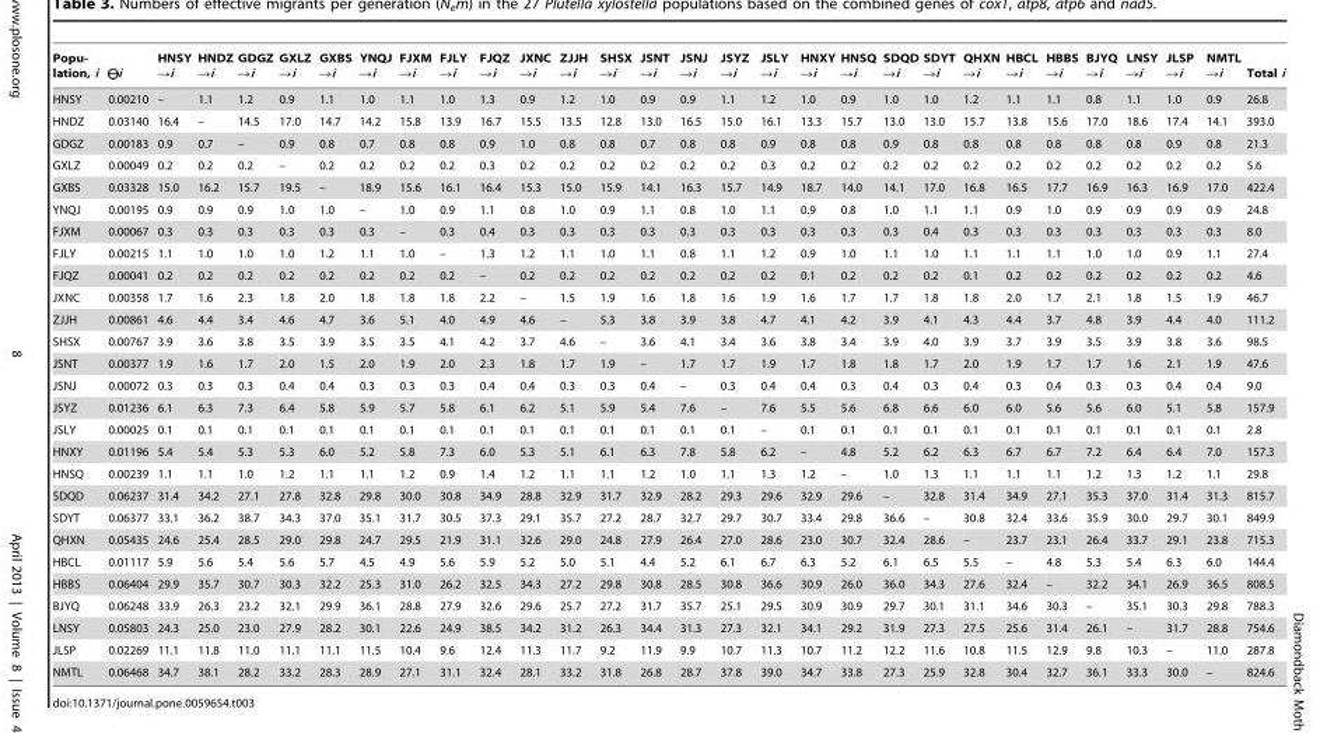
<table><thead><tr><td>Popu- lation, i</td><td>i</td><td>HNSY →i</td><td>HNDZ →i</td><td>GDGZ →i</td><td>GXLZ →i</td><td>GXBS →i</td><td>YNQJ →i</td><td>FJXM →i</td><td>FJLY →i</td><td>FJQZ →i</td><td>JXNC →i</td><td>ZJJH →i</td><td>SHSX →i</td><td>JSNT →i</td><td>JSNJ →i</td><td>JSYZ →i</td><td>JSLY →i</td><td>HNXY →i</td><td>HNSQ →i</td><td>SDQD →i</td><td>SDYT →i</td><td>QHXN →i</td><td>HBCL →i</td><td>HBBS →i</td><td>BJYQ →i</td><td>LNSY →i</td><td>JLSP →i</td><td>NMTL →i</td><td>Total i</td></tr></thead><tbody><tr><td>HNSY</td><td>0.00210</td><td>–</td><td>1.1</td><td>1.2</td><td>0.9</td><td>1.1</td><td>1.0</td><td>1.1</td><td>1.0</td><td>1.3</td><td>0.9</td><td>1.2</td><td>1.0</td><td>0.9</td><td>0.9</td><td>1.1</td><td>1.2</td><td>1.0</td><td>0.9</td><td>1.0</td><td>1.0</td><td>1.2</td><td>1.1</td><td>1.1</td><td>0.8</td><td>1.1</td><td>1.0</td><td>0.9</td><td>26.8</td></tr><tr><td>HNDZ</td><td>0.03140</td><td>16.4</td><td>–</td><td>14.5</td><td>17.0</td><td>14.7</td><td>14.2</td><td>15.8</td><td>13.9</td><td>16.7</td><td>15.5</td><td>13.5</td><td>12.8</td><td>13.0</td><td>16.5</td><td>15.0</td><td>16.1</td><td>13.3</td><td>15.7</td><td>13.0</td><td>13.0</td><td>15.7</td><td>13.8</td><td>15.6</td><td>17.0</td><td>18.6</td><td>17.4</td><td>14.1</td><td>393.0</td></tr><tr><td>GDGZ</td><td>0.00183</td><td>0.9</td><td>0.7</td><td>–</td><td>0.9</td><td>0.8</td><td>0.7</td><td>0.8</td><td>0.8</td><td>0.9</td><td>1.0</td><td>0.8</td><td>0.8</td><td>0.7</td><td>0.8</td><td>0.8</td><td>0.9</td><td>0.8</td><td>0.8</td><td>0.9</td><td>0.8</td><td>0.8</td><td>0.8</td><td>0.8</td><td>0.8</td><td>0.8</td><td>0.9</td><td>0.8</td><td>21.3</td></tr><tr><td>GXLZ</td><td>0.00049</td><td>0.2</td><td>0.2</td><td>0.2</td><td>–</td><td>0.2</td><td>0.2</td><td>0.2</td><td>0.2</td><td>0.3</td><td>0.2</td><td>0.2</td><td>0.2</td><td>0.2</td><td>0.2</td><td>0.2</td><td>0.3</td><td>0.2</td><td>0.2</td><td>0.2</td><td>0.2</td><td>0.2</td><td>0.2</td><td>0.2</td><td>0.2</td><td>0.2</td><td>0.2</td><td>0.2</td><td>5.6</td></tr><tr><td>GXBS</td><td>0.03328</td><td>15.0</td><td>16.2</td><td>15.7</td><td>19.5</td><td>–</td><td>18.9</td><td>15.6</td><td>16.1</td><td>16.4</td><td>15.3</td><td>15.0</td><td>15.9</td><td>14.1</td><td>16.3</td><td>15.7</td><td>14.9</td><td>18.7</td><td>14.0</td><td>14.1</td><td>17.0</td><td>16.8</td><td>16.5</td><td>17.7</td><td>16.9</td><td>16.3</td><td>16.9</td><td>17.0</td><td>422.4</td></tr><tr><td>YNQJ</td><td>0.00195</td><td>0.9</td><td>0.9</td><td>0.9</td><td>1.0</td><td>1.0</td><td>–</td><td>1.0</td><td>0.9</td><td>1.1</td><td>0.8</td><td>1.0</td><td>0.9</td><td>1.1</td><td>0.8</td><td>1.0</td><td>1.1</td><td>0.9</td><td>0.8</td><td>1.0</td><td>1.1</td><td>1.1</td><td>0.9</td><td>1.0</td><td>0.9</td><td>0.9</td><td>0.9</td><td>0.9</td><td>24.8</td></tr><tr><td>FJXM</td><td>0.00067</td><td>0.3</td><td>0.3</td><td>0.3</td><td>0.3</td><td>0.3</td><td>0.3</td><td>–</td><td>0.3</td><td>0.4</td><td>0.3</td><td>0.3</td><td>0.3</td><td>0.3</td><td>0.3</td><td>0.3</td><td>0.3</td><td>0.3</td><td>0.3</td><td>0.3</td><td>0.4</td><td>0.3</td><td>0.3</td><td>0.3</td><td>0.3</td><td>0.3</td><td>0.3</td><td>0.3</td><td>8.0</td></tr><tr><td>FJLY</td><td>0.00215</td><td>1.1</td><td>1.0</td><td>1.0</td><td>1.0</td><td>1.2</td><td>1.1</td><td>1.0</td><td>–</td><td>1.3</td><td>1.2</td><td>1.1</td><td>1.0</td><td>1.1</td><td>0.8</td><td>1.1</td><td>1.2</td><td>0.9</td><td>1.0</td><td>1.1</td><td>1.0</td><td>1.1</td><td>1.1</td><td>1.1</td><td>1.0</td><td>1.0</td><td>0.9</td><td>1.1</td><td>27.4</td></tr><tr><td>FJQZ</td><td>0.00041</td><td>0.2</td><td>0.2</td><td>0.2</td><td>0.2</td><td>0.2</td><td>0.2</td><td>0.2</td><td>0.2</td><td>–</td><td>0.2</td><td>0.2</td><td>0.2</td><td>0.2</td><td>0.2</td><td>0.2</td><td>0.2</td><td>0.1</td><td>0.2</td><td>0.2</td><td>0.2</td><td>0.1</td><td>0.2</td><td>0.2</td><td>0.2</td><td>0.2</td><td>0.2</td><td>0.2</td><td>4.6</td></tr><tr><td>JXNC</td><td>0.00358</td><td>1.7</td><td>1.6</td><td>2.3</td><td>1.8</td><td>2.0</td><td>1.8</td><td>1.8</td><td>1.8</td><td>2.2</td><td>–</td><td>1.5</td><td>1.9</td><td>1.6</td><td>1.8</td><td>1.6</td><td>1.9</td><td>1.6</td><td>1.7</td><td>1.7</td><td>1.8</td><td>1.8</td><td>2.0</td><td>1.7</td><td>2.1</td><td>1.8</td><td>1.5</td><td>1.9</td><td>46.7</td></tr><tr><td>ZJJH</td><td>0.00861</td><td>4.6</td><td>4.4</td><td>3.4</td><td>4.6</td><td>4.7</td><td>3.6</td><td>5.1</td><td>4.0</td><td>4.9</td><td>4.6</td><td>–</td><td>5.3</td><td>3.8</td><td>3.9</td><td>3.8</td><td>4.7</td><td>4.1</td><td>4.2</td><td>3.9</td><td>4.1</td><td>4.3</td><td>4.4</td><td>3.7</td><td>4.8</td><td>3.9</td><td>4.4</td><td>4.0</td><td>111.2</td></tr><tr><td>SHSX</td><td>0.00767</td><td>3.9</td><td>3.6</td><td>3.8</td><td>3.5</td><td>3.9</td><td>3.5</td><td>3.5</td><td>4.1</td><td>4.2</td><td>3.7</td><td>4.6</td><td>–</td><td>3.6</td><td>4.1</td><td>3.4</td><td>3.6</td><td>3.8</td><td>3.4</td><td>3.9</td><td>4.0</td><td>3.9</td><td>3.7</td><td>3.9</td><td>3.5</td><td>3.9</td><td>3.8</td><td>3.6</td><td>98.5</td></tr><tr><td>JSNT</td><td>0.00377</td><td>1.9</td><td>1.6</td><td>1.7</td><td>2.0</td><td>1.5</td><td>2.0</td><td>1.9</td><td>2.0</td><td>2.3</td><td>1.8</td><td>1.7</td><td>1.9</td><td>–</td><td>1.7</td><td>1.7</td><td>1.9</td><td>1.7</td><td>1.8</td><td>1.8</td><td>1.7</td><td>2.0</td><td>1.9</td><td>1.7</td><td>1.7</td><td>1.6</td><td>2.1</td><td>1.9</td><td>47.6</td></tr><tr><td>JSNJ</td><td>0.00072</td><td>0.3</td><td>0.3</td><td>0.3</td><td>0.4</td><td>0.4</td><td>0.3</td><td>0.3</td><td>0.3</td><td>0.4</td><td>0.4</td><td>0.3</td><td>0.3</td><td>0.4</td><td>–</td><td>0.3</td><td>0.4</td><td>0.4</td><td>0.3</td><td>0.4</td><td>0.3</td><td>0.4</td><td>0.3</td><td>0.4</td><td>0.3</td><td>0.3</td><td>0.4</td><td>0.4</td><td>9.0</td></tr><tr><td>JSYZ</td><td>0.01236</td><td>6.1</td><td>6.3</td><td>7.3</td><td>6.4</td><td>5.8</td><td>5.9</td><td>5.7</td><td>5.8</td><td>6.1</td><td>6.2</td><td>5.1</td><td>5.9</td><td>5.4</td><td>7.6</td><td>–</td><td>7.6</td><td>5.5</td><td>5.6</td><td>6.8</td><td>6.6</td><td>6.0</td><td>6.0</td><td>5.6</td><td>5.6</td><td>6.0</td><td>5.1</td><td>5.8</td><td>157.9</td></tr><tr><td>JSLY</td><td>0.00025</td><td>0.1</td><td>0.1</td><td>0.1</td><td>0.1</td><td>0.1</td><td>0.1</td><td>0.1</td><td>0.1</td><td>0.1</td><td>0.1</td><td>0.1</td><td>0.1</td><td>0.1</td><td>0.1</td><td>0.1</td><td>–</td><td>0.1</td><td>0.1</td><td>0.1</td><td>0.1</td><td>0.1</td><td>0.1</td><td>0.1</td><td>0.1</td><td>0.1</td><td>0.1</td><td>0.1</td><td>2.8</td></tr><tr><td>HNXY</td><td>0.01196</td><td>5.4</td><td>5.4</td><td>5.3</td><td>5.3</td><td>6.0</td><td>5.2</td><td>5.8</td><td>7.3</td><td>6.0</td><td>5.3</td><td>5.1</td><td>6.1</td><td>6.3</td><td>7.8</td><td>5.8</td><td>6.2</td><td>–</td><td>4.8</td><td>5.2</td><td>6.2</td><td>6.3</td><td>6.7</td><td>6.7</td><td>7.2</td><td>6.4</td><td>6.4</td><td>7.0</td><td>157.3</td></tr><tr><td>HNSQ</td><td>0.00239</td><td>1.1</td><td>1.1</td><td>1.0</td><td>1.2</td><td>1.1</td><td>1.1</td><td>1.2</td><td>0.9</td><td>1.4</td><td>1.2</td><td>1.1</td><td>1.1</td><td>1.2</td><td>1.0</td><td>1.1</td><td>1.3</td><td>1.2</td><td>–</td><td>1.0</td><td>1.3</td><td>1.1</td><td>1.1</td><td>1.1</td><td>1.2</td><td>1.3</td><td>1.2</td><td>1.1</td><td>29.8</td></tr><tr><td>SDQD</td><td>0.06237</td><td>31.4</td><td>34.2</td><td>27.1</td><td>27.8</td><td>32.8</td><td>29.8</td><td>30.0</td><td>30.8</td><td>34.9</td><td>28.8</td><td>32.9</td><td>31.7</td><td>32.9</td><td>28.2</td><td>29.3</td><td>29.6</td><td>32.9</td><td>29.6</td><td>–</td><td>32.8</td><td>31.4</td><td>34.9</td><td>27.1</td><td>35.3</td><td>37.0</td><td>31.4</td><td>31.3</td><td>815.7</td></tr><tr><td>SDYT</td><td>0.06377</td><td>33.1</td><td>36.2</td><td>38.7</td><td>34.3</td><td>37.0</td><td>35.1</td><td>31.7</td><td>30.5</td><td>37.3</td><td>29.1</td><td>35.7</td><td>27.2</td><td>28.7</td><td>32.7</td><td>29.7</td><td>30.7</td><td>33.4</td><td>29.8</td><td>36.6</td><td>–</td><td>30.8</td><td>32.4</td><td>33.6</td><td>35.9</td><td>30.0</td><td>29.7</td><td>30.1</td><td>849.9</td></tr><tr><td>QHXN</td><td>0.05435</td><td>24.6</td><td>25.4</td><td>28.5</td><td>29.0</td><td>29.8</td><td>24.7</td><td>29.5</td><td>21.9</td><td>31.1</td><td>32.6</td><td>29.0</td><td>24.8</td><td>27.9</td><td>26.4</td><td>27.0</td><td>28.6</td><td>23.0</td><td>30.7</td><td>32.4</td><td>28.6</td><td>–</td><td>23.7</td><td>23.1</td><td>26.4</td><td>33.7</td><td>29.1</td><td>23.8</td><td>715.3</td></tr><tr><td>HBCL</td><td>0.01117</td><td>5.9</td><td>5.6</td><td>5.4</td><td>5.6</td><td>5.7</td><td>4.5</td><td>4.9</td><td>5.6</td><td>5.9</td><td>5.2</td><td>5.0</td><td>5.1</td><td>4.4</td><td>5.2</td><td>6.1</td><td>6.7</td><td>6.3</td><td>5.2</td><td>6.1</td><td>6.5</td><td>5.5</td><td>–</td><td>4.8</td><td>5.3</td><td>5.4</td><td>6.3</td><td>6.0</td><td>144.4</td></tr><tr><td>HBBS</td><td>0.06404</td><td>29.9</td><td>35.7</td><td>30.7</td><td>30.3</td><td>32.2</td><td>25.3</td><td>31.0</td><td>26.2</td><td>32.5</td><td>34.3</td><td>27.2</td><td>29.8</td><td>30.8</td><td>28.5</td><td>30.8</td><td>36.6</td><td>30.9</td><td>26.0</td><td>36.0</td><td>34.3</td><td>27.6</td><td>32.4</td><td>–</td><td>32.2</td><td>34.1</td><td>26.9</td><td>36.5</td><td>808.5</td></tr><tr><td>BJYQ</td><td>0.06248</td><td>33.9</td><td>26.3</td><td>23.2</td><td>32.1</td><td>29.9</td><td>36.1</td><td>28.8</td><td>27.9</td><td>32.6</td><td>29.6</td><td>25.7</td><td>27.2</td><td>31.7</td><td>35.7</td><td>25.1</td><td>29.5</td><td>30.9</td><td>30.9</td><td>29.7</td><td>30.1</td><td>31.1</td><td>34.6</td><td>30.3</td><td>–</td><td>35.1</td><td>30.3</td><td>29.8</td><td>788.3</td></tr><tr><td>LNSY</td><td>0.05803</td><td>24.3</td><td>25.0</td><td>23.0</td><td>27.9</td><td>28.2</td><td>30.1</td><td>22.6</td><td>24.9</td><td>38.5</td><td>34.2</td><td>31.2</td><td>26.3</td><td>34.4</td><td>31.3</td><td>27.3</td><td>32.1</td><td>34.1</td><td>29.2</td><td>31.9</td><td>27.3</td><td>27.5</td><td>25.6</td><td>31.4</td><td>26.1</td><td>–</td><td>31.7</td><td>28.8</td><td>754.6</td></tr><tr><td>JLSP</td><td>0.02269</td><td>11.1</td><td>11.8</td><td>11.0</td><td>11.1</td><td>11.1</td><td>11.5</td><td>10.4</td><td>9.6</td><td>12.4</td><td>11.3</td><td>11.7</td><td>9.2</td><td>11.9</td><td>9.9</td><td>10.7</td><td>11.3</td><td>10.7</td><td>11.2</td><td>12.2</td><td>11.6</td><td>10.8</td><td>11.5</td><td>12.9</td><td>9.8</td><td>10.3</td><td>–</td><td>11.0</td><td>287.8</td></tr><tr><td>NMTL</td><td>0.06468</td><td>34.7</td><td>38.1</td><td>28.2</td><td>33.2</td><td>28.3</td><td>28.9</td><td>27.1</td><td>31.1</td><td>32.4</td><td>28.1</td><td>33.2</td><td>31.8</td><td>26.8</td><td>28.7</td><td>37.8</td><td>39.0</td><td>34.7</td><td>33.8</td><td>27.3</td><td>25.9</td><td>32.8</td><td>30.4</td><td>32.7</td><td>36.1</td><td>33.3</td><td>30.0</td><td>–</td><td>824.6</td></tr></tbody></table>